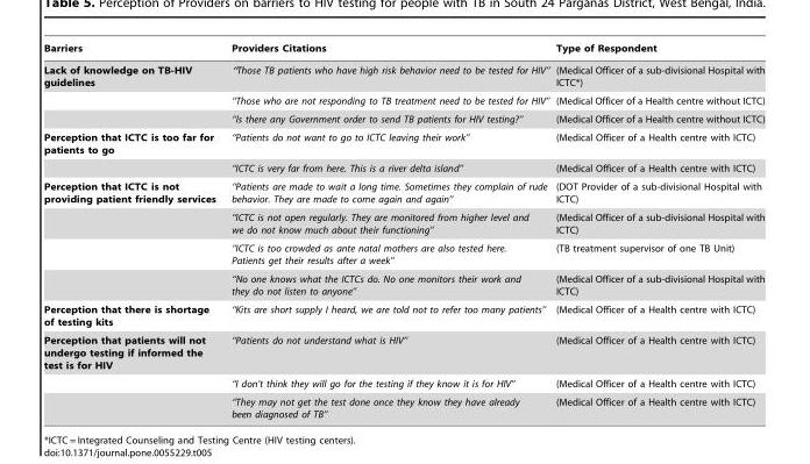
<table><thead><tr><td>Barriers</td><td>Providers Citations</td><td>Type of Respondent</td></tr></thead><tbody><tr><td rowspan="3">Lack of knowledge on TB-HIV guidelines</td><td>‘‘Those TB patients who have high risk behavior need to be tested for HIV’’</td><td>(Medical Officer of a sub-divisional Hospital with ICTC*)</td></tr><tr><td>‘‘Those who are not responding to TB treatment need to be tested for HIV’’</td><td>(Medical Officer of a Health centre without ICTC)</td></tr><tr><td>‘‘Is there any Government order to send TB patients for HIV testing?’’</td><td>(Medical Officer of a Health centre without ICTC)</td></tr><tr><td rowspan="2">Perception that ICTC is too far for patients to go</td><td>‘‘Patients do not want to go to ICTC leaving their work’’</td><td>(Medical Officer of a Health centre with ICTC)</td></tr><tr><td>‘‘ICTC is very far from here. This is a river delta island’’</td><td>(Medical Officer of a Health centre with ICTC)</td></tr><tr><td rowspan="4">Perception that ICTC is not providing patient friendly services</td><td>‘‘Patients are made to wait a long time. Sometimes they complain of rude behavior. They are made to come again and again’’</td><td>(DOT Provider of a sub-divisional Hospital with ICTC)</td></tr><tr><td>‘‘ICTC is not open regularly. They are monitored from higher level and we do not know much about their functioning’’</td><td>(Medical Officer of a sub-divisional Hospital with ICTC)</td></tr><tr><td>‘‘ICTC is too crowded as ante natal mothers are also tested here. Patients get their results after a week’’</td><td>(TB treatment supervisor of one TB Unit)</td></tr><tr><td>‘‘No one knows what the ICTCs do. No one monitors their work and they do not listen to anyone’’</td><td>(Medical Officer of a sub-divisional Hospital with ICTC)</td></tr><tr><td>Perception that there is shortage of testing kits</td><td>‘‘Kits are short supply I heard, we are told not to refer too many patients’’</td><td>(Medical Officer of a Health centre with ICTC)</td></tr><tr><td rowspan="3">Perception that patients will not undergo testing if informed the test is for HIV</td><td>‘‘Patients do not understand what is HIV’’</td><td>(Medical Officer of a Health centre with ICTC)</td></tr><tr><td>‘‘I don’t think they will go for the testing if they know it is for HIV’’</td><td>(Medical Officer of a Health centre with ICTC)</td></tr><tr><td>‘‘They may not get the test done once they know they have already been diagnosed of TB’’</td><td>(Medical Officer of a Health centre with ICTC)</td></tr></tbody></table>